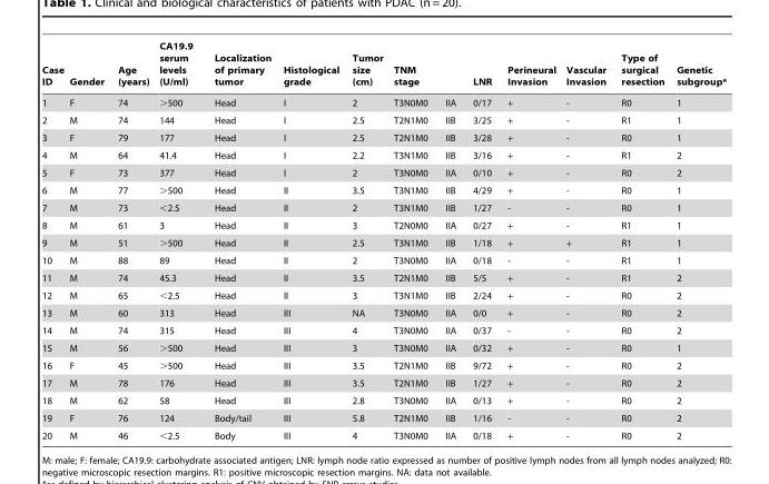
<table><thead><tr><td rowspan="2">Case ID 1</td><td rowspan="2">Gender F</td><td rowspan="2">Age (years) 74</td><td rowspan="2">CA19.9 serum levels (U/ml) &gt;500</td><td rowspan="2">Localization of primary tumor Head</td><td rowspan="2">Histological grade I</td><td rowspan="2">Tumor size (cm) 2</td><td colspan="2">TNM stage</td><td rowspan="2">LNR 0/17</td><td rowspan="2">Perineural Invasion +</td><td rowspan="2">Vascular Invasion -</td><td rowspan="2">Type of surgical resection R0</td><td rowspan="2">Genetic subgroup* 1</td></tr><tr><td>T3N0M0</td><td>IIA</td></tr></thead><tbody><tr><td>2</td><td>M</td><td>74</td><td>144</td><td>Head</td><td>I</td><td>2.5</td><td>T2N1M0</td><td>IIB</td><td>3/25</td><td>+</td><td>-</td><td>R1</td><td>1</td></tr><tr><td>3</td><td>F</td><td>79</td><td>177</td><td>Head</td><td>I</td><td>2.5</td><td>T2N1M0</td><td>IIB</td><td>3/28</td><td>+</td><td>-</td><td>R0</td><td>1</td></tr><tr><td>4</td><td>M</td><td>64</td><td>41.4</td><td>Head</td><td>I</td><td>2.2</td><td>T3N1M0</td><td>IIB</td><td>3/16</td><td>+</td><td>-</td><td>R1</td><td>2</td></tr><tr><td>5</td><td>F</td><td>73</td><td>377</td><td>Head</td><td>I</td><td>2</td><td>T3N0M0</td><td>IIA</td><td>0/10</td><td>+</td><td>-</td><td>R0</td><td>2</td></tr><tr><td>6</td><td>M</td><td>77</td><td>&gt;500</td><td>Head</td><td>II</td><td>3.5</td><td>T3N1M0</td><td>IIB</td><td>4/29</td><td>+</td><td>-</td><td>R0</td><td>1</td></tr><tr><td>7</td><td>M</td><td>73</td><td>&lt;2.5</td><td>Head</td><td>II</td><td>2</td><td>T3N1M0</td><td>IIB</td><td>1/27</td><td>-</td><td>-</td><td>R0</td><td>1</td></tr><tr><td>8</td><td>M</td><td>61</td><td>3</td><td>Head</td><td>II</td><td>3</td><td>T2N0M0</td><td>IIA</td><td>0/27</td><td>+</td><td>-</td><td>R1</td><td>1</td></tr><tr><td>9</td><td>M</td><td>51</td><td>&gt;500</td><td>Head</td><td>II</td><td>2.5</td><td>T3N1M0</td><td>IIB</td><td>1/18</td><td>+</td><td>+</td><td>R1</td><td>1</td></tr><tr><td>10</td><td>M</td><td>88</td><td>89</td><td>Head</td><td>II</td><td>2</td><td>T3N0M0</td><td>IIA</td><td>0/18</td><td>-</td><td>-</td><td>R1</td><td>1</td></tr><tr><td>11</td><td>M</td><td>74</td><td>45.3</td><td>Head</td><td>II</td><td>3.5</td><td>T2N1M0</td><td>IIB</td><td>5/5</td><td>+</td><td>-</td><td>R1</td><td>2</td></tr><tr><td>12</td><td>M</td><td>65</td><td>&lt;2.5</td><td>Head</td><td>II</td><td>3</td><td>T3N1M0</td><td>IIB</td><td>2/24</td><td>+</td><td>-</td><td>R0</td><td>2</td></tr><tr><td>13</td><td>M</td><td>60</td><td>313</td><td>Head</td><td>III</td><td>NA</td><td>T3N0M0</td><td>IIA</td><td>0/0</td><td>+</td><td>-</td><td>R0</td><td>2</td></tr><tr><td>14</td><td>M</td><td>74</td><td>315</td><td>Head</td><td>III</td><td>4</td><td>T3N0M0</td><td>IIA</td><td>0/37</td><td>-</td><td>-</td><td>R0</td><td>2</td></tr><tr><td>15</td><td>M</td><td>56</td><td>&gt;500</td><td>Head</td><td>III</td><td>3</td><td>T3N0M0</td><td>IIA</td><td>0/32</td><td>+</td><td>-</td><td>R0</td><td>1</td></tr><tr><td>16</td><td>F</td><td>45</td><td>&gt;500</td><td>Head</td><td>III</td><td>3.5</td><td>T2N1M0</td><td>IIB</td><td>9/72</td><td>+</td><td>-</td><td>R0</td><td>2</td></tr><tr><td>17</td><td>M</td><td>78</td><td>176</td><td>Head</td><td>III</td><td>3.5</td><td>T2N1M0</td><td>IIB</td><td>1/27</td><td>+</td><td>-</td><td>R0</td><td>2</td></tr><tr><td>18</td><td>M</td><td>62</td><td>58</td><td>Head</td><td>III</td><td>2.8</td><td>T3N0M0</td><td>IIA</td><td>0/13</td><td>+</td><td>-</td><td>R0</td><td>2</td></tr><tr><td>19</td><td>F</td><td>76</td><td>124</td><td>Body/tail</td><td>III</td><td>5.8</td><td>T2N1M0</td><td>IIB</td><td>1/16</td><td>-</td><td>-</td><td>R0</td><td>2</td></tr><tr><td>20</td><td>M</td><td>46</td><td>&lt;2.5</td><td>Body</td><td>III</td><td>4</td><td>T3N0M0</td><td>IIA</td><td>0/18</td><td>+</td><td>-</td><td>R0</td><td>2</td></tr></tbody></table>